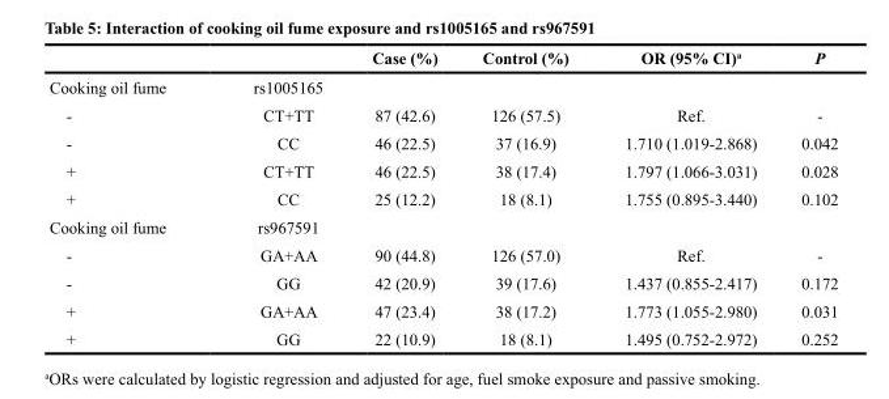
<table><thead><tr><td></td><td></td><td>Case (%)</td><td>Control (%)</td><td>OR (95% CI)<sup>a</sup></td><td>P</td></tr></thead><tbody><tr><td>Cooking oil fume</td><td>rs1005165</td><td></td><td></td><td></td><td></td></tr><tr><td>-</td><td>CT+TT</td><td>87 (42.6)</td><td>126 (57.5)</td><td>Ref.</td><td>-</td></tr><tr><td>-</td><td>CC</td><td>46 (22.5)</td><td>37 (16.9)</td><td>1.710 (1.019-2.868)</td><td>0.042</td></tr><tr><td>+</td><td>CT+TT</td><td>46 (22.5)</td><td>38 (17.4)</td><td>1.797 (1.066-3.031)</td><td>0.028</td></tr><tr><td>+</td><td>CC</td><td>25 (12.2)</td><td>18 (8.1)</td><td>1.755 (0.895-3.440)</td><td>0.102</td></tr><tr><td>Cooking oil fume</td><td>rs967591</td><td></td><td></td><td></td><td></td></tr><tr><td>-</td><td>GA+AA</td><td>90 (44.8)</td><td>126 (57.0)</td><td>Ref.</td><td>-</td></tr><tr><td>-</td><td>GG</td><td>42 (20.9)</td><td>39 (17.6)</td><td>1.437 (0.855-2.417)</td><td>0.172</td></tr><tr><td>+</td><td>GA+AA</td><td>47 (23.4)</td><td>38 (17.2)</td><td>1.773 (1.055-2.980)</td><td>0.031</td></tr><tr><td>+</td><td>GG</td><td>22 (10.9)</td><td>18 (8.1)</td><td>1.495 (0.752-2.972)</td><td>0.252</td></tr></tbody></table>